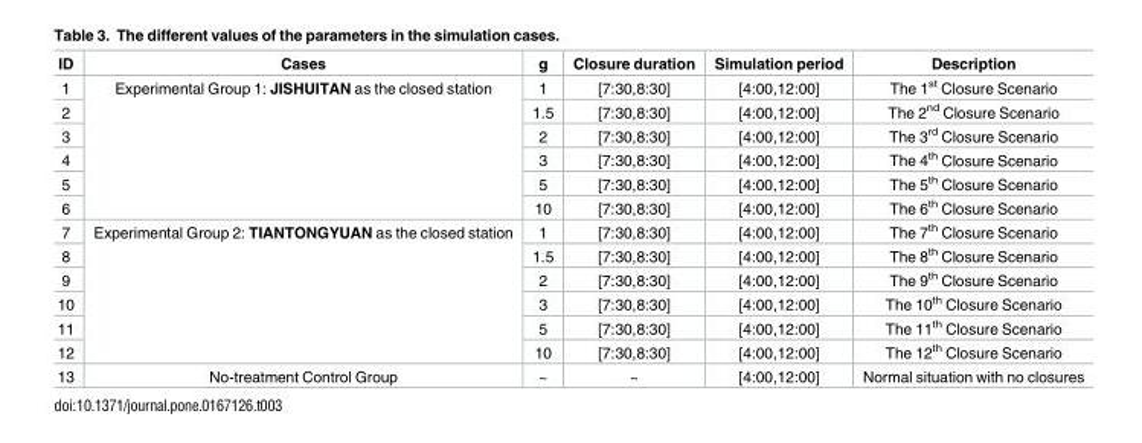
<table><thead><tr><td>ID</td><td>Cases</td><td>g</td><td>Closure duration</td><td>Simulation period</td><td>Description</td></tr></thead><tbody><tr><td>1</td><td rowspan="6">Experimental Group 1: JISHUITAN as the closed station</td><td>1</td><td>[7:30,8:30]</td><td>[4:00,12:00]</td><td>The 1<sup>st</sup> Closure Scenario</td></tr><tr><td>2</td><td>1.5</td><td>[7:30,8:30]</td><td>[4:00,12:00]</td><td>The 2<sup>nd</sup> Closure Scenario</td></tr><tr><td>3</td><td>2</td><td>[7:30,8:30]</td><td>[4:00,12:00]</td><td>The 3<sup>rd</sup> Closure Scenario</td></tr><tr><td>4</td><td>3</td><td>[7:30,8:30]</td><td>[4:00,12:00]</td><td>The 4<sup>th</sup> Closure Scenario</td></tr><tr><td>5</td><td>5</td><td>[7:30,8:30]</td><td>[4:00,12:00]</td><td>The 5<sup>th</sup> Closure Scenario</td></tr><tr><td>6</td><td>10</td><td>[7:30,8:30]</td><td>[4:00,12:00]</td><td>The 6<sup>th</sup> Closure Scenario</td></tr><tr><td>7</td><td rowspan="6">Experimental Group 2: TIANTONGYUAN as the closed station</td><td>1</td><td>[7:30,8:30]</td><td>[4:00,12:00]</td><td>The 7<sup>th</sup> Closure Scenario</td></tr><tr><td>8</td><td>1.5</td><td>[7:30,8:30]</td><td>[4:00,12:00]</td><td>The 8<sup>th</sup> Closure Scenario</td></tr><tr><td>9</td><td>2</td><td>[7:30,8:30]</td><td>[4:00,12:00]</td><td>The 9<sup>th</sup> Closure Scenario</td></tr><tr><td>10</td><td>3</td><td>[7:30,8:30]</td><td>[4:00,12:00]</td><td>The 10<sup>th</sup> Closure Scenario</td></tr><tr><td>11</td><td>5</td><td>[7:30,8:30]</td><td>[4:00,12:00]</td><td>The 11<sup>th</sup> Closure Scenario</td></tr><tr><td>12</td><td>10</td><td>[7:30,8:30]</td><td>[4:00,12:00]</td><td>The 12<sup>th</sup> Closure Scenario</td></tr><tr><td>13</td><td>No-treatment Control Group</td><td>~</td><td>~</td><td>[4:00,12:00]</td><td>Normal situation with no closures</td></tr></tbody></table>